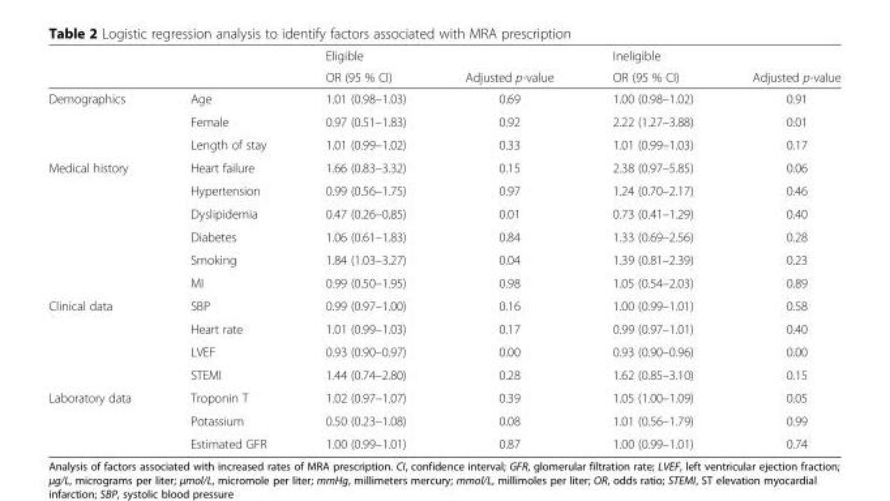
<table><thead><tr><td rowspan="2"></td><td rowspan="2"></td><td rowspan="2">Eligible OR (95 % CI)</td><td rowspan="2">Adjusted p-value</td><td rowspan="2">Ineligible OR (95 % CI)</td><td rowspan="2">Adjusted p-value</td></tr><tr></tr></thead><tbody><tr><td rowspan="3">Demographics</td><td>Age</td><td>1.01 (0.98–1.03)</td><td>0.69</td><td>1.00 (0.98–1.02)</td><td>0.91</td></tr><tr><td>Female</td><td>0.97 (0.51–1.83)</td><td>0.92</td><td>2.22 (1.27–3.88)</td><td>0.01</td></tr><tr><td>Length of stay</td><td>1.01 (0.99–1.02)</td><td>0.33</td><td>1.01 (0.99–1.03)</td><td>0.17</td></tr><tr><td rowspan="6">Medical history</td><td>Heart failure</td><td>1.66 (0.83–3.32)</td><td>0.15</td><td>2.38 (0.97–5.85)</td><td>0.06</td></tr><tr><td>Hypertension</td><td>0.99 (0.56–1.75)</td><td>0.97</td><td>1.24 (0.70–2.17)</td><td>0.46</td></tr><tr><td>Dyslipidemia</td><td>0.47 (0.26–0.85)</td><td>0.01</td><td>0.73 (0.41–1.29)</td><td>0.40</td></tr><tr><td>Diabetes</td><td>1.06 (0.61–1.83)</td><td>0.84</td><td>1.33 (0.69–2.56)</td><td>0.28</td></tr><tr><td>Smoking</td><td>1.84 (1.03–3.27)</td><td>0.04</td><td>1.39 (0.81–2.39)</td><td>0.23</td></tr><tr><td>MI</td><td>0.99 (0.50–1.95)</td><td>0.98</td><td>1.05 (0.54–2.03)</td><td>0.89</td></tr><tr><td rowspan="4">Clinical data</td><td>SBP</td><td>0.99 (0.97–1.00)</td><td>0.16</td><td>1.00 (0.99–1.01)</td><td>0.58</td></tr><tr><td>Heart rate</td><td>1.01 (0.99–1.03)</td><td>0.17</td><td>0.99 (0.97–1.01)</td><td>0.40</td></tr><tr><td>LVEF</td><td>0.93 (0.90–0.97)</td><td>0.00</td><td>0.93 (0.90–0.96)</td><td>0.00</td></tr><tr><td>STEMI</td><td>1.44 (0.74–2.80)</td><td>0.28</td><td>1.62 (0.85–3.10)</td><td>0.15</td></tr><tr><td rowspan="3">Laboratory data</td><td>Troponin T</td><td>1.02 (0.97–1.07)</td><td>0.39</td><td>1.05 (1.00–1.09)</td><td>0.05</td></tr><tr><td>Potassium</td><td>0.50 (0.23–1.08)</td><td>0.08</td><td>1.01 (0.56–1.79)</td><td>0.99</td></tr><tr><td>Estimated GFR</td><td>1.00 (0.99–1.01)</td><td>0.87</td><td>1.00 (0.99–1.01)</td><td>0.74</td></tr></tbody></table>